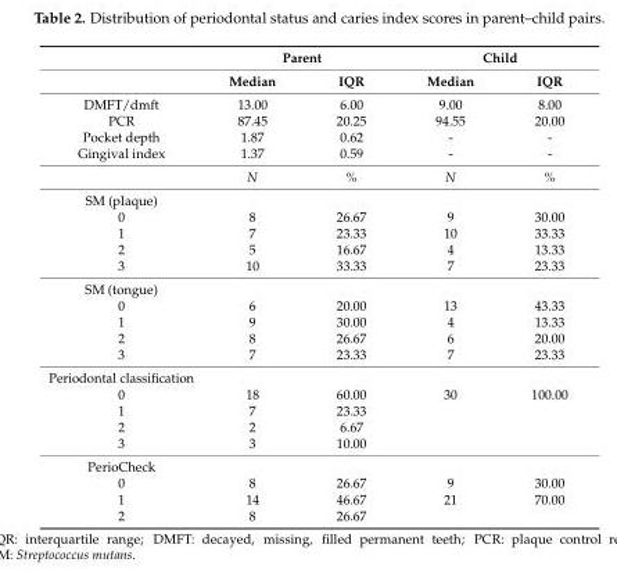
<table><thead><tr><td rowspan="2"></td><td colspan="2">Parent</td><td colspan="2">Child</td></tr><tr><td>Median</td><td>IQR</td><td>Median</td><td>IQR</td></tr></thead><tbody><tr><td>DMFT/dmft</td><td>13.00</td><td>6.00</td><td>9.00</td><td>8.00</td></tr><tr><td>PCR</td><td>87.45</td><td>20.25</td><td>94.55</td><td>20.00</td></tr><tr><td>Pocket depth</td><td>1.87</td><td>0.62</td><td>-</td><td>-</td></tr><tr><td rowspan="2">Gingival index</td><td>1.37</td><td>0.59</td><td>-</td><td>-</td></tr><tr><td>N</td><td>%</td><td>N</td><td>%</td></tr><tr><td colspan="5">SM (plaque)</td></tr><tr><td>0</td><td>8</td><td>26.67</td><td>9</td><td>30.00</td></tr><tr><td>1</td><td>7</td><td>23.33</td><td>10</td><td>33.33</td></tr><tr><td>2</td><td>5</td><td>16.67</td><td>4</td><td>13.33</td></tr><tr><td>3</td><td>10</td><td>33.33</td><td>7</td><td>23.33</td></tr><tr><td colspan="5">SM (tongue)</td></tr><tr><td>0</td><td>6</td><td>20.00</td><td>13</td><td>43.33</td></tr><tr><td>1</td><td>9</td><td>30.00</td><td>4</td><td>13.33</td></tr><tr><td>2</td><td>8</td><td>26.67</td><td>6</td><td>20.00</td></tr><tr><td>3</td><td>7</td><td>23.33</td><td>7</td><td>23.33</td></tr><tr><td colspan="5">Periodontal classification</td></tr><tr><td>0</td><td>18</td><td>60.00</td><td>30</td><td>100.00</td></tr><tr><td>1</td><td>7</td><td>23.33</td><td></td><td></td></tr><tr><td>2</td><td>2</td><td>6.67</td><td></td><td></td></tr><tr><td>3</td><td>3</td><td>10.00</td><td></td><td></td></tr><tr><td colspan="5">PerioCheck</td></tr><tr><td>0</td><td>8</td><td>26.67</td><td>9</td><td>30.00</td></tr><tr><td>1</td><td>14</td><td>46.67</td><td>21</td><td>70.00</td></tr><tr><td>2</td><td>8</td><td>26.67</td><td></td><td></td></tr></tbody></table>